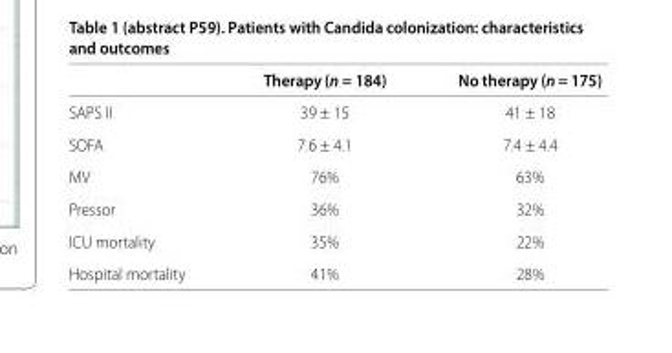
<table><thead><tr><td></td><td>Therapy (n = 184)</td><td>No therapy (n = 175)</td></tr></thead><tbody><tr><td>SAPS II</td><td>39 ± 15</td><td>41 ± 18</td></tr><tr><td>SOFA</td><td>7.6 ± 4.1</td><td>7.4 ± 4.4</td></tr><tr><td>MV</td><td>76%</td><td>63%</td></tr><tr><td>Pressor</td><td>36%</td><td>32%</td></tr><tr><td>ICU mortality</td><td>35%</td><td>22%</td></tr><tr><td>Hospital mortality</td><td>41%</td><td>28%</td></tr></tbody></table>